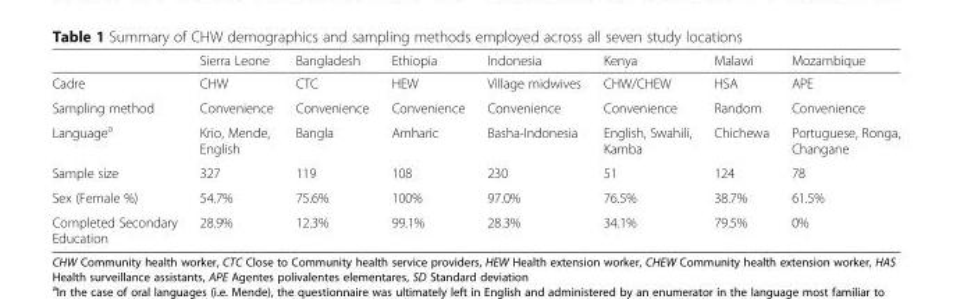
<table><thead><tr><td></td><td>Sierra Leone</td><td>Bangladesh</td><td>Ethiopia</td><td>Indonesia</td><td>Kenya</td><td>Malawi</td><td>Mozambique</td></tr></thead><tbody><tr><td>Cadre</td><td>CHW</td><td>CTC</td><td>HEW</td><td>Village midwives</td><td>CHW/CHEW</td><td>HSA</td><td>APE</td></tr><tr><td>Sampling method</td><td>Convenience</td><td>Convenience</td><td>Convenience</td><td>Convenience</td><td>Convenience</td><td>Random</td><td>Convenience</td></tr><tr><td>Language<sup>a</sup></td><td>Krio, Mende, English</td><td>Bangla</td><td>Amharic</td><td>Basha-Indonesia</td><td>English, Swahili, Kamba</td><td>Chichewa</td><td>Portuguese, Ronga, Changane</td></tr><tr><td>Sample size</td><td>327</td><td>119</td><td>108</td><td>230</td><td>51</td><td>124</td><td>78</td></tr><tr><td>Sex (Female %)</td><td>54.7%</td><td>75.6%</td><td>100%</td><td>97.0%</td><td>76.5%</td><td>38.7%</td><td>61.5%</td></tr><tr><td>Completed Secondary Education</td><td>28.9%</td><td>12.3%</td><td>99.1%</td><td>28.3%</td><td>34.1%</td><td>79.5%</td><td>0%</td></tr></tbody></table>